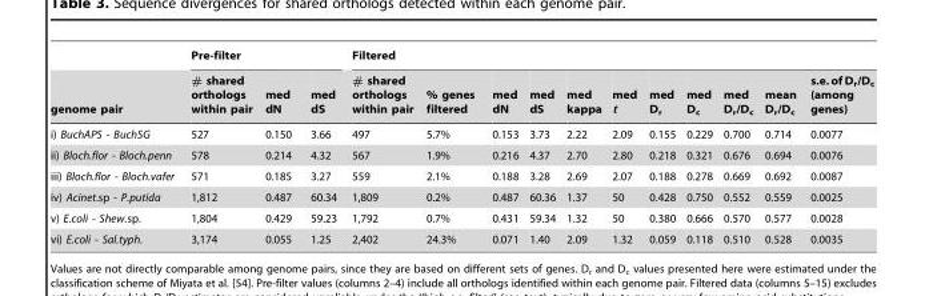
<table><thead><tr><td rowspan="2">genome pair</td><td colspan="3">Pre-filter</td><td colspan="11">Filtered</td></tr><tr><td># shared orthologs within pair</td><td>med dN</td><td>med dS</td><td># shared orthologs within pair</td><td>% genes filtered</td><td>med dN</td><td>med dS</td><td>med kappa</td><td>med t</td><td>med D<sub>r</sub></td><td>med D<sub>c</sub></td><td>med D<sub>r</sub>/D<sub>c</sub></td><td>mean D<sub>r</sub>/D<sub>c</sub></td><td>s.e. of D<sub>r</sub>/D<sub>c</sub> (among genes)</td></tr></thead><tbody><tr><td>i) BuchAPS - BuchSG</td><td>527</td><td>0.150</td><td>3.66</td><td>497</td><td>5.7%</td><td>0.153</td><td>3.73</td><td>2.22</td><td>2.09</td><td>0.155</td><td>0.229</td><td>0.700</td><td>0.714</td><td>0.0077</td></tr><tr><td>ii) Bloch.flor - Bloch.penn</td><td>578</td><td>0.214</td><td>4.32</td><td>567</td><td>1.9%</td><td>0.216</td><td>4.37</td><td>2.70</td><td>2.80</td><td>0.218</td><td>0.321</td><td>0.676</td><td>0.694</td><td>0.0076</td></tr><tr><td>iii) Bloch.flor - Bloch.vafer</td><td>571</td><td>0.185</td><td>3.27</td><td>559</td><td>2.1%</td><td>0.188</td><td>3.28</td><td>2.69</td><td>2.07</td><td>0.188</td><td>0.278</td><td>0.669</td><td>0.692</td><td>0.0087</td></tr><tr><td>iv) Acinet.sp - P.putida</td><td>1,812</td><td>0.487</td><td>60.34</td><td>1,809</td><td>0.2%</td><td>0.487</td><td>60.36</td><td>1.37</td><td>50</td><td>0.428</td><td>0.750</td><td>0.552</td><td>0.559</td><td>0.0025</td></tr><tr><td>v) E.coli - Shew.sp.</td><td>1,804</td><td>0.429</td><td>59.23</td><td>1,792</td><td>0.7%</td><td>0.431</td><td>59.34</td><td>1.32</td><td>50</td><td>0.380</td><td>0.666</td><td>0.570</td><td>0.577</td><td>0.0028</td></tr><tr><td>vi) E.coli - Sal.typh.</td><td>3,174</td><td>0.055</td><td>1.25</td><td>2,402</td><td>24.3%</td><td>0.071</td><td>1.40</td><td>2.09</td><td>1.32</td><td>0.059</td><td>0.118</td><td>0.510</td><td>0.528</td><td>0.0035</td></tr></tbody></table>